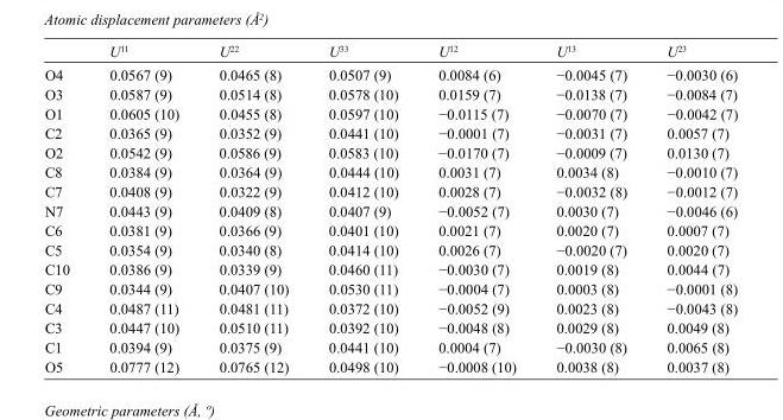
<table><thead><tr><td></td><td>U<sup>11</sup></td><td>U<sup>22</sup></td><td>U<sup>33</sup></td><td>U<sup>12</sup></td><td>U<sup>13</sup></td><td>U<sup>23</sup></td></tr></thead><tbody><tr><td>O4</td><td>0.0567 (9)</td><td>0.0465 (8)</td><td>0.0507 (9)</td><td>0.0084 (6)</td><td>−0.0045 (7)</td><td>−0.0030 (6)</td></tr><tr><td>O3</td><td>0.0587 (9)</td><td>0.0514 (8)</td><td>0.0578 (10)</td><td>0.0159 (7)</td><td>−0.0138 (7)</td><td>−0.0084 (7)</td></tr><tr><td>O1</td><td>0.0605 (10)</td><td>0.0455 (8)</td><td>0.0597 (10)</td><td>−0.0115 (7)</td><td>−0.0070 (7)</td><td>−0.0042 (7)</td></tr><tr><td>C2</td><td>0.0365 (9)</td><td>0.0352 (9)</td><td>0.0441 (10)</td><td>−0.0001 (7)</td><td>−0.0031 (7)</td><td>0.0057 (7)</td></tr><tr><td>O2</td><td>0.0542 (9)</td><td>0.0586 (9)</td><td>0.0583 (10)</td><td>−0.0170 (7)</td><td>−0.0009 (7)</td><td>0.0130 (7)</td></tr><tr><td>C8</td><td>0.0384 (9)</td><td>0.0364 (9)</td><td>0.0444 (10)</td><td>0.0031 (7)</td><td>0.0034 (8)</td><td>−0.0010 (7)</td></tr><tr><td>C7</td><td>0.0408 (9)</td><td>0.0322 (9)</td><td>0.0412 (10)</td><td>0.0028 (7)</td><td>−0.0032 (8)</td><td>−0.0012 (7)</td></tr><tr><td>N7</td><td>0.0443 (9)</td><td>0.0409 (8)</td><td>0.0407 (9)</td><td>−0.0052 (7)</td><td>0.0030 (7)</td><td>−0.0046 (6)</td></tr><tr><td>C6</td><td>0.0381 (9)</td><td>0.0366 (9)</td><td>0.0401 (10)</td><td>0.0021 (7)</td><td>0.0020 (7)</td><td>0.0007 (7)</td></tr><tr><td>C5</td><td>0.0354 (9)</td><td>0.0340 (8)</td><td>0.0414 (10)</td><td>0.0026 (7)</td><td>−0.0020 (7)</td><td>0.0020 (7)</td></tr><tr><td>C10</td><td>0.0386 (9)</td><td>0.0339 (9)</td><td>0.0460 (11)</td><td>−0.0030 (7)</td><td>0.0019 (8)</td><td>0.0044 (7)</td></tr><tr><td>C9</td><td>0.0344 (9)</td><td>0.0407 (10)</td><td>0.0530 (11)</td><td>−0.0004 (7)</td><td>0.0003 (8)</td><td>−0.0001 (8)</td></tr><tr><td>C4</td><td>0.0487 (11)</td><td>0.0481 (11)</td><td>0.0372 (10)</td><td>−0.0052 (9)</td><td>0.0023 (8)</td><td>−0.0043 (8)</td></tr><tr><td>C3</td><td>0.0447 (10)</td><td>0.0510 (11)</td><td>0.0392 (10)</td><td>−0.0048 (8)</td><td>0.0029 (8)</td><td>0.0049 (8)</td></tr><tr><td>C1</td><td>0.0394 (9)</td><td>0.0375 (9)</td><td>0.0441 (10)</td><td>0.0004 (7)</td><td>−0.0030 (8)</td><td>0.0065 (8)</td></tr><tr><td>O5</td><td>0.0777 (12)</td><td>0.0765 (12)</td><td>0.0498 (10)</td><td>−0.0008 (10)</td><td>0.0038 (8)</td><td>0.0037 (8)</td></tr></tbody></table>